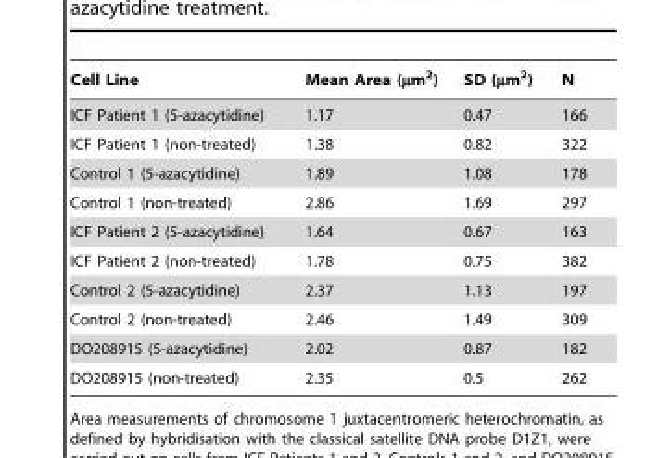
<table><thead><tr><td>Cell Line</td><td>Mean Area (µm<sup>2</sup>)</td><td>SD (µm<sup>2</sup>)</td><td>N</td></tr></thead><tbody><tr><td>ICF Patient 1 (5-azacytidine)</td><td>1.17</td><td>0.47</td><td>166</td></tr><tr><td>ICF Patient 1 (non-treated)</td><td>1.38</td><td>0.82</td><td>322</td></tr><tr><td>Control 1 (5-azacytidine)</td><td>1.89</td><td>1.08</td><td>178</td></tr><tr><td>Control 1 (non-treated)</td><td>2.86</td><td>1.69</td><td>297</td></tr><tr><td>ICF Patient 2 (5-azacytidine)</td><td>1.64</td><td>0.67</td><td>163</td></tr><tr><td>ICF Patient 2 (non-treated)</td><td>1.78</td><td>0.75</td><td>382</td></tr><tr><td>Control 2 (5-azacytidine)</td><td>2.37</td><td>1.13</td><td>197</td></tr><tr><td>Control 2 (non-treated)</td><td>2.46</td><td>1.49</td><td>309</td></tr><tr><td>DO208915 (5-azacytidine)</td><td>2.02</td><td>0.87</td><td>182</td></tr><tr><td>DO208915 (non-treated)</td><td>2.35</td><td>0.5</td><td>262</td></tr></tbody></table>